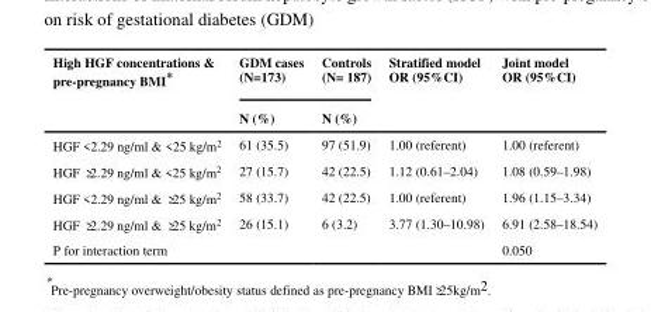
<table><thead><tr><td rowspan="2">High HGF concentrations &amp; pre-pregnancy BMI*</td><td rowspan="2">GDM cases (N=173) N (%)</td><td rowspan="2">Controls (N= 187) N (%)</td><td rowspan="2">Stratified model OR (95%CI)</td><td rowspan="2">Joint model OR (95%CI)</td></tr><tr></tr></thead><tbody><tr><td>HGF &lt;2.29 ng/ml &amp; &lt;25 kg/m<sup>2</sup></td><td>61 (35.5)</td><td>97 (51.9)</td><td>1.00 (referent)</td><td>1.00 (referent)</td></tr><tr><td>HGF ≥2.29 ng/ml &amp; &lt;25 kg/m<sup>2</sup></td><td>27 (15.7)</td><td>42 (22.5)</td><td>1.12 (0.61–2.04)</td><td>1.08 (0.59–1.98)</td></tr><tr><td>HGF &lt;2.29 ng/ml &amp; ≥25 kg/m<sup>2</sup></td><td>58 (33.7)</td><td>42 (22.5)</td><td>1.00 (referent)</td><td>1.96 (1.15–3.34)</td></tr><tr><td>HGF ≥2.29 ng/ml &amp; ≥25 kg/m<sup>2</sup></td><td>26 (15.1)</td><td>6 (3.2)</td><td>3.77 (1.30–10.98)</td><td>6.91 (2.58–18.54)</td></tr><tr><td>P for interaction term</td><td></td><td></td><td></td><td>0.050</td></tr></tbody></table>